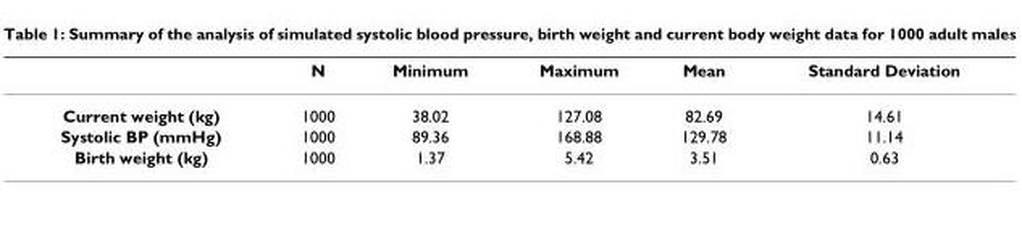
<table><thead><tr><td></td><td>N</td><td>Minimum</td><td>Maximum</td><td>Mean</td><td>Standard Deviation</td></tr></thead><tbody><tr><td>Current weight (kg)</td><td>1000</td><td>38.02</td><td>127.08</td><td>82.69</td><td>14.61</td></tr><tr><td>Systolic BP (mmHg)</td><td>1000</td><td>89.36</td><td>168.88</td><td>129.78</td><td>11.14</td></tr><tr><td>Birth weight (kg)</td><td>1000</td><td>1.37</td><td>5.42</td><td>3.51</td><td>0.63</td></tr></tbody></table>